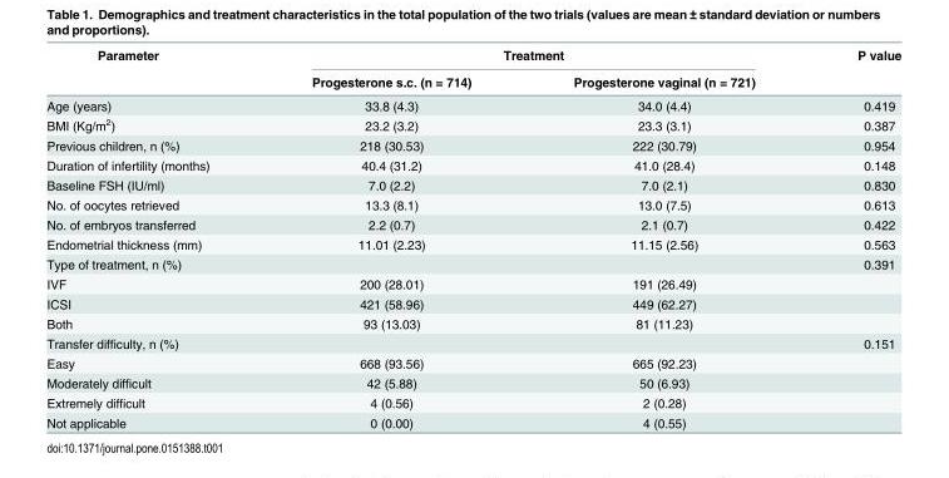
<table><thead><tr><td rowspan="2">Parameter</td><td colspan="2">Treatment</td><td rowspan="2">P value</td></tr><tr><td>Progesterone s.c. (n = 714)</td><td>Progesterone vaginal (n = 721)</td></tr></thead><tbody><tr><td>Age (years)</td><td>33.8 (4.3)</td><td>34.0 (4.4)</td><td>0.419</td></tr><tr><td>BMI (Kg/m<sup>2</sup>)</td><td>23.2 (3.2)</td><td>23.3 (3.1)</td><td>0.387</td></tr><tr><td>Previous children, n (%)</td><td>218 (30.53)</td><td>222 (30.79)</td><td>0.954</td></tr><tr><td>Duration of infertility (months)</td><td>40.4 (31.2)</td><td>41.0 (28.4)</td><td>0.148</td></tr><tr><td>Baseline FSH (IU/ml)</td><td>7.0 (2.2)</td><td>7.0 (2.1)</td><td>0.830</td></tr><tr><td>No. of oocytes retrieved</td><td>13.3 (8.1)</td><td>13.0 (7.5)</td><td>0.613</td></tr><tr><td>No. of embryos transferred</td><td>2.2 (0.7)</td><td>2.1 (0.7)</td><td>0.422</td></tr><tr><td>Endometrial thickness (mm)</td><td>11.01 (2.23)</td><td>11.15 (2.56)</td><td>0.563</td></tr><tr><td>Type of treatment, n (%)</td><td></td><td></td><td>0.391</td></tr><tr><td>IVF</td><td>200 (28.01)</td><td>191 (26.49)</td><td></td></tr><tr><td>ICSI</td><td>421 (58.96)</td><td>449 (62.27)</td><td></td></tr><tr><td>Both</td><td>93 (13.03)</td><td>81 (11.23)</td><td></td></tr><tr><td>Transfer difficulty, n (%)</td><td></td><td></td><td>0.151</td></tr><tr><td>Easy</td><td>668 (93.56)</td><td>665 (92.23)</td><td></td></tr><tr><td>Moderately difficult</td><td>42 (5.88)</td><td>50 (6.93)</td><td></td></tr><tr><td>Extremely difficult</td><td>4 (0.56)</td><td>2 (0.28)</td><td></td></tr><tr><td>Not applicable</td><td>0 (0.00)</td><td>4 (0.55)</td><td></td></tr></tbody></table>